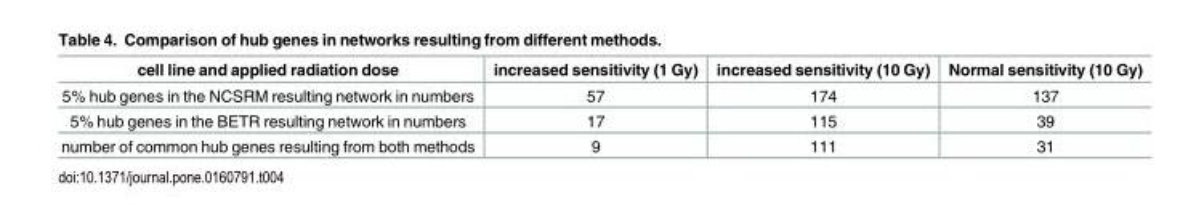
<table><thead><tr><td>cell line and applied radiation dose</td><td>increased sensitivity (1 Gy)</td><td>increased sensitivity (10 Gy)</td><td>Normal sensitivity (10 Gy)</td></tr></thead><tbody><tr><td>5% hub genes in the NCSRM resulting network in numbers</td><td>57</td><td>174</td><td>137</td></tr><tr><td>5% hub genes in the BETR resulting network in numbers</td><td>17</td><td>115</td><td>39</td></tr><tr><td>number of common hub genes resulting from both methods</td><td>9</td><td>111</td><td>31</td></tr></tbody></table>